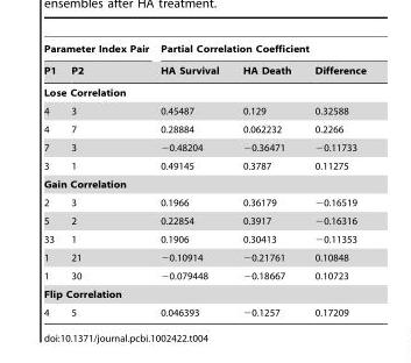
<table><thead><tr><td colspan="2">Parameter Index Pair</td><td colspan="3">Partial Correlation Coefficient</td></tr><tr><td>P1</td><td>P2</td><td>HA Survival</td><td>HA Death</td><td>Difference</td></tr></thead><tbody><tr><td colspan="5">Lose Correlation</td></tr><tr><td>4</td><td>3</td><td>0.45487</td><td>0.129</td><td>0.32588</td></tr><tr><td>4</td><td>7</td><td>0.28884</td><td>0.062232</td><td>0.2266</td></tr><tr><td>7</td><td>3</td><td>−0.48204</td><td>−0.36471</td><td>−0.11733</td></tr><tr><td>3</td><td>1</td><td>0.49145</td><td>0.3787</td><td>0.11275</td></tr><tr><td colspan="5">Gain Correlation</td></tr><tr><td>2</td><td>3</td><td>0.1966</td><td>0.36179</td><td>−0.16519</td></tr><tr><td>5</td><td>2</td><td>0.22854</td><td>0.3917</td><td>−0.16316</td></tr><tr><td>33</td><td>1</td><td>0.1906</td><td>0.30413</td><td>−0.11353</td></tr><tr><td>1</td><td>21</td><td>−0.10914</td><td>−0.21761</td><td>0.10848</td></tr><tr><td>1</td><td>30</td><td>−0.079448</td><td>−0.18667</td><td>0.10723</td></tr><tr><td colspan="5">Flip Correlation</td></tr><tr><td>4</td><td>5</td><td>0.046393</td><td>−0.1257</td><td>0.17209</td></tr></tbody></table>